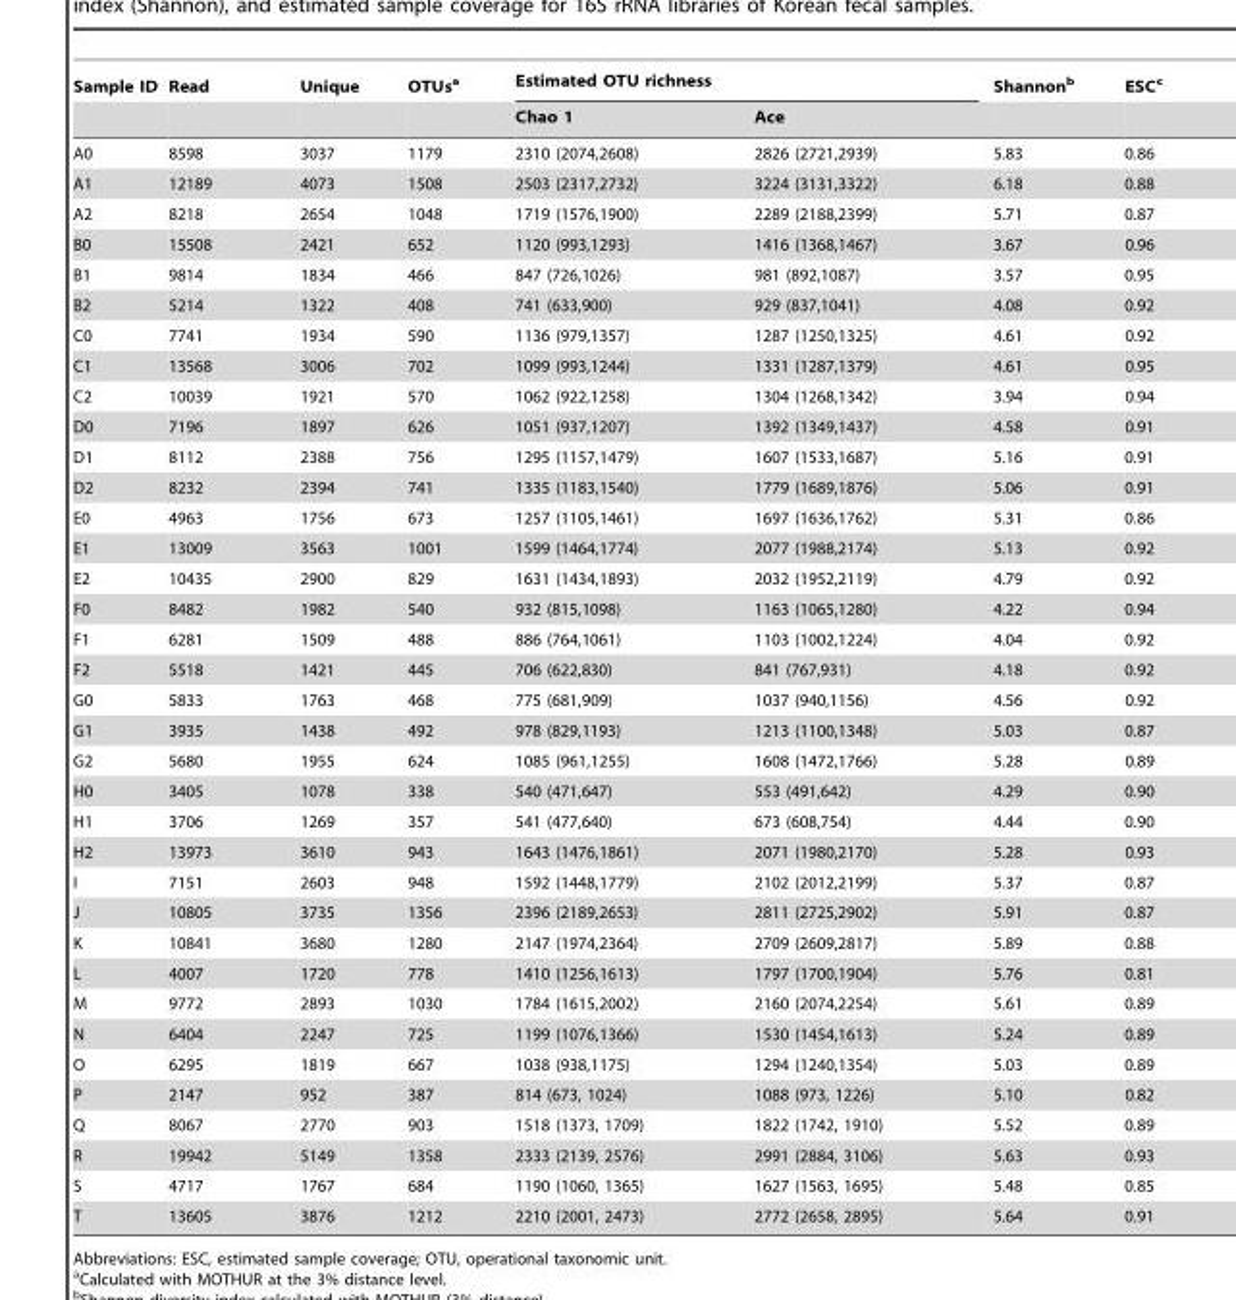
<table><thead><tr><td rowspan="2">Sample ID</td><td rowspan="2">Read</td><td rowspan="2">Unique</td><td rowspan="2">OTUs<sup>a</sup></td><td colspan="2">Estimated OTU richness</td><td rowspan="2">Shannon<sup>b</sup></td><td rowspan="2">ESC<sup>c</sup></td></tr><tr><td>Chao 1</td><td>Ace</td></tr></thead><tbody><tr><td>A0</td><td>8598</td><td>3037</td><td>1179</td><td>2310 (2074,2608)</td><td>2826 (2721,2939)</td><td>5.83</td><td>0.86</td></tr><tr><td>A1</td><td>12189</td><td>4073</td><td>1508</td><td>2503 (2317,2732)</td><td>3224 (3131,3322)</td><td>6.18</td><td>0.88</td></tr><tr><td>A2</td><td>8218</td><td>2654</td><td>1048</td><td>1719 (1576,1900)</td><td>2289 (2188,2399)</td><td>5.71</td><td>0.87</td></tr><tr><td>B0</td><td>15508</td><td>2421</td><td>652</td><td>1120 (993,1293)</td><td>1416 (1368,1467)</td><td>3.67</td><td>0.96</td></tr><tr><td>B1</td><td>9814</td><td>1834</td><td>466</td><td>847 (726,1026)</td><td>981 (892,1087)</td><td>3.57</td><td>0.95</td></tr><tr><td>B2</td><td>5214</td><td>1322</td><td>408</td><td>741 (633,900)</td><td>929 (837,1041)</td><td>4.08</td><td>0.92</td></tr><tr><td>C0</td><td>7741</td><td>1934</td><td>590</td><td>1136 (979,1357)</td><td>1287 (1250,1325)</td><td>4.61</td><td>0.92</td></tr><tr><td>C1</td><td>13568</td><td>3006</td><td>702</td><td>1099 (993,1244)</td><td>1331 (1287,1379)</td><td>4.61</td><td>0.95</td></tr><tr><td>C2</td><td>10039</td><td>1921</td><td>570</td><td>1062 (922,1258)</td><td>1304 (1268,1342)</td><td>3.94</td><td>0.94</td></tr><tr><td>D0</td><td>7196</td><td>1897</td><td>626</td><td>1051 (937,1207)</td><td>1392 (1349,1437)</td><td>4.58</td><td>0.91</td></tr><tr><td>D1</td><td>8112</td><td>2388</td><td>756</td><td>1295 (1157,1479)</td><td>1607 (1533,1687)</td><td>5.16</td><td>0.91</td></tr><tr><td>D2</td><td>8232</td><td>2394</td><td>741</td><td>1335 (1183,1540)</td><td>1779 (1689,1876)</td><td>5.06</td><td>0.91</td></tr><tr><td>E0</td><td>4963</td><td>1756</td><td>673</td><td>1257 (1105,1461)</td><td>1697 (1636,1762)</td><td>5.31</td><td>0.86</td></tr><tr><td>E1</td><td>13009</td><td>3563</td><td>1001</td><td>1599 (1464,1774)</td><td>2077 (1988,2174)</td><td>5.13</td><td>0.92</td></tr><tr><td>E2</td><td>10435</td><td>2900</td><td>829</td><td>1631 (1434,1893)</td><td>2032 (1952,2119)</td><td>4.79</td><td>0.92</td></tr><tr><td>F0</td><td>8482</td><td>1982</td><td>540</td><td>932 (815,1098)</td><td>1163 (1065,1280)</td><td>4.22</td><td>0.94</td></tr><tr><td>F1</td><td>6281</td><td>1509</td><td>488</td><td>886 (764,1061)</td><td>1103 (1002,1224)</td><td>4.04</td><td>0.92</td></tr><tr><td>F2</td><td>5518</td><td>1421</td><td>445</td><td>706 (622,830)</td><td>841 (767,931)</td><td>4.18</td><td>0.92</td></tr><tr><td>G0</td><td>5833</td><td>1763</td><td>468</td><td>775 (681,909)</td><td>1037 (940,1156)</td><td>4.56</td><td>0.92</td></tr><tr><td>G1</td><td>3935</td><td>1438</td><td>492</td><td>978 (829,1193)</td><td>1213 (1100,1348)</td><td>5.03</td><td>0.87</td></tr><tr><td>G2</td><td>5680</td><td>1955</td><td>624</td><td>1085 (961,1255)</td><td>1608 (1472,1766)</td><td>5.28</td><td>0.89</td></tr><tr><td>H0</td><td>3405</td><td>1078</td><td>338</td><td>540 (471,647)</td><td>553 (491,642)</td><td>4.29</td><td>0.90</td></tr><tr><td>H1</td><td>3706</td><td>1269</td><td>357</td><td>541 (477,640)</td><td>673 (608,754)</td><td>4.44</td><td>0.90</td></tr><tr><td>H2</td><td>13973</td><td>3610</td><td>943</td><td>1643 (1476,1861)</td><td>2071 (1980,2170)</td><td>5.28</td><td>0.93</td></tr><tr><td>I</td><td>7151</td><td>2603</td><td>948</td><td>1592 (1448,1779)</td><td>2102 (2012,2199)</td><td>5.37</td><td>0.87</td></tr><tr><td>J</td><td>10805</td><td>3735</td><td>1356</td><td>2396 (2189,2653)</td><td>2811 (2725,2902)</td><td>5.91</td><td>0.87</td></tr><tr><td>K</td><td>10841</td><td>3680</td><td>1280</td><td>2147 (1974,2364)</td><td>2709 (2609,2817)</td><td>5.89</td><td>0.88</td></tr><tr><td>L</td><td>4007</td><td>1720</td><td>778</td><td>1410 (1256,1613)</td><td>1797 (1700,1904)</td><td>5.76</td><td>0.81</td></tr><tr><td>M</td><td>9772</td><td>2893</td><td>1030</td><td>1784 (1615,2002)</td><td>2160 (2074,2254)</td><td>5.61</td><td>0.89</td></tr><tr><td>N</td><td>6404</td><td>2247</td><td>725</td><td>1199 (1076,1366)</td><td>1530 (1454,1613)</td><td>5.24</td><td>0.89</td></tr><tr><td>O</td><td>6295</td><td>1819</td><td>667</td><td>1038 (938,1175)</td><td>1294 (1240,1354)</td><td>5.03</td><td>0.89</td></tr><tr><td>P</td><td>2147</td><td>952</td><td>387</td><td>814 (673, 1024)</td><td>1088 (973, 1226)</td><td>5.10</td><td>0.82</td></tr><tr><td>Q</td><td>8067</td><td>2770</td><td>903</td><td>1518 (1373, 1709)</td><td>1822 (1742, 1910)</td><td>5.52</td><td>0.89</td></tr><tr><td>R</td><td>19942</td><td>5149</td><td>1358</td><td>2333 (2139, 2576)</td><td>2991 (2884, 3106)</td><td>5.63</td><td>0.93</td></tr><tr><td>S</td><td>4717</td><td>1767</td><td>684</td><td>1190 (1060, 1365)</td><td>1627 (1563, 1695)</td><td>5.48</td><td>0.85</td></tr><tr><td>T</td><td>13605</td><td>3876</td><td>1212</td><td>2210 (2001, 2473)</td><td>2772 (2658, 2895)</td><td>5.64</td><td>0.91</td></tr></tbody></table>